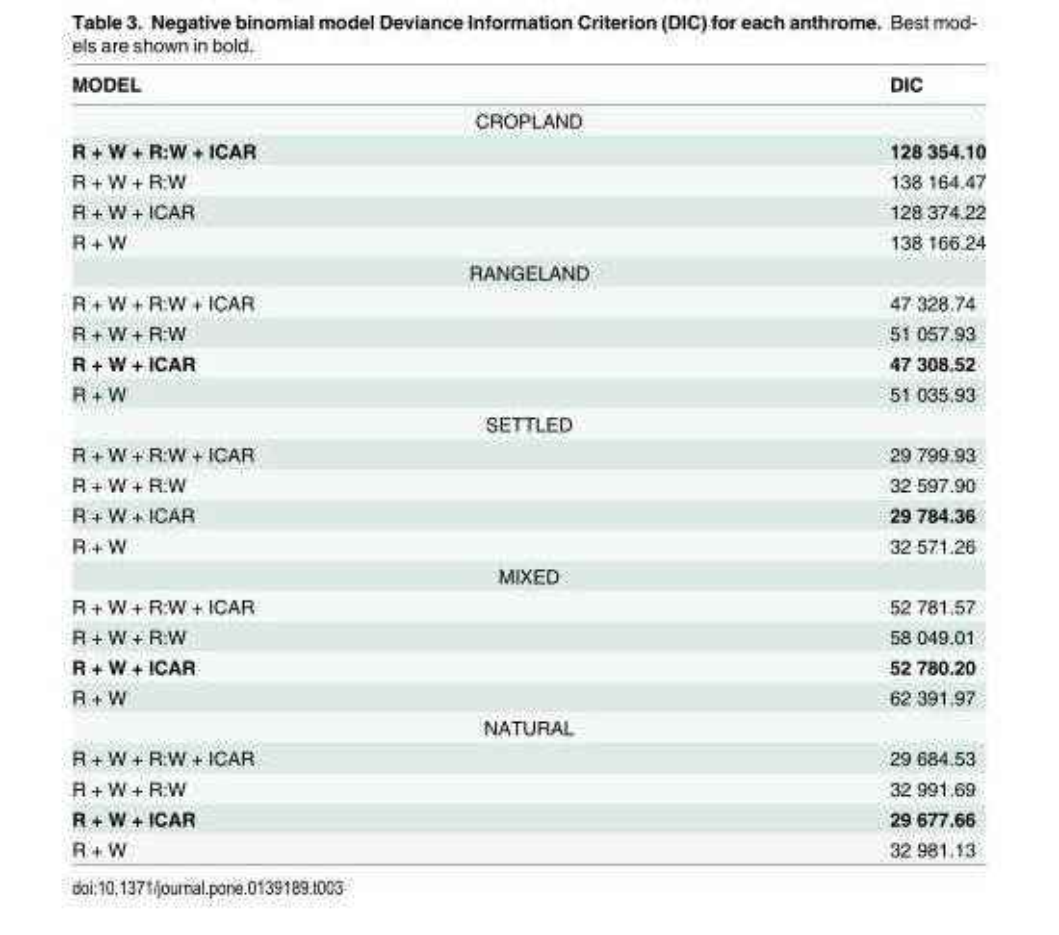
<table><thead><tr><td>MODEL</td><td>DIC</td></tr></thead><tbody><tr><td colspan="2">CROPLAND</td></tr><tr><td>R + W + R:W + ICAR</td><td>128 354.10</td></tr><tr><td>R + W + R:W</td><td>138 164.47</td></tr><tr><td>R + W + ICAR</td><td>128 374.22</td></tr><tr><td>R + W</td><td>138 166.24</td></tr><tr><td colspan="2">RANGELAND</td></tr><tr><td>R + W + R:W + ICAR</td><td>47 328.74</td></tr><tr><td>R + W + R:W</td><td>51 057.93</td></tr><tr><td>R + W + ICAR</td><td>47 308.52</td></tr><tr><td>R + W</td><td>51 035.93</td></tr><tr><td colspan="2">SETTLED</td></tr><tr><td>R + W + R:W + ICAR</td><td>29 799.93</td></tr><tr><td>R + W + R:W</td><td>32 597.90</td></tr><tr><td>R + W + ICAR</td><td>29 784.36</td></tr><tr><td>R + W</td><td>32 571.26</td></tr><tr><td colspan="2">MIXED</td></tr><tr><td>R + W + R:W + ICAR</td><td>52 781.57</td></tr><tr><td>R + W + R:W</td><td>58 049.01</td></tr><tr><td>R + W + ICAR</td><td>52 780.20</td></tr><tr><td>R + W</td><td>62 391.97</td></tr><tr><td colspan="2">NATURAL</td></tr><tr><td>R + W + R:W + ICAR</td><td>29 684.53</td></tr><tr><td>R + W + R:W</td><td>32 991.69</td></tr><tr><td>R + W + ICAR</td><td>29 677.66</td></tr><tr><td>R + W</td><td>32 981.13</td></tr></tbody></table>